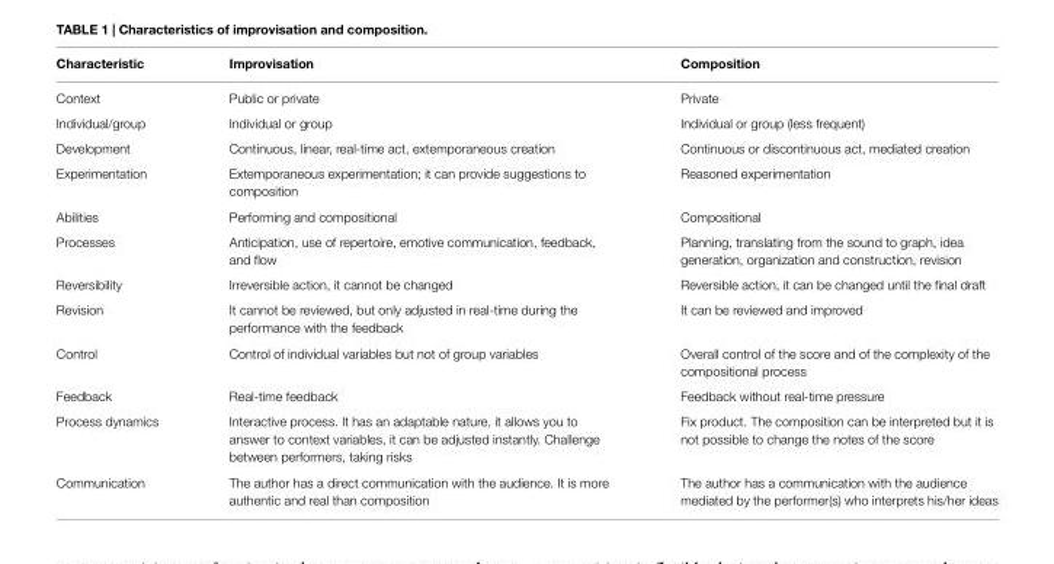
<table><thead><tr><td>Characteristic</td><td>Improvisation</td><td>Composition</td></tr></thead><tbody><tr><td>Context</td><td>Public or private</td><td>Private</td></tr><tr><td>Individual/group</td><td>Individual or group</td><td>Individual or group (less frequent)</td></tr><tr><td>Development</td><td>Continuous, linear, real-time act, extemporaneous creation</td><td>Continuous or discontinuous act, mediated creation</td></tr><tr><td>Experimentation</td><td>Extemporaneous experimentation; it can provide suggestions to composition</td><td>Reasoned experimentation</td></tr><tr><td>Abilities</td><td>Performing and compositional</td><td>Compositional</td></tr><tr><td>Processes</td><td>Anticipation, use of repertoire, emotive communication, feedback, and flow</td><td>Planning, translating from the sound to graph, idea generation, organization and construction, revision</td></tr><tr><td>Reversibility</td><td>Irreversible action, it cannot be changed</td><td>Reversible action, it can be changed until the final draft</td></tr><tr><td>Revision</td><td>It cannot be reviewed, but only adjusted in real-time during the performance with the feedback</td><td>It can be reviewed and improved</td></tr><tr><td>Control</td><td>Control of individual variables but not of group variables</td><td>Overall control of the score and of the complexity of the compositional process</td></tr><tr><td>Feedback</td><td>Real-time feedback</td><td>Feedback without real-time pressure</td></tr><tr><td>Process dynamics</td><td>Interactive process. It has an adaptable nature, it allows you to answer to context variables, it can be adjusted instantly. Challenge between performers, taking risks</td><td>Fix product. The composition can be interpreted but it is not possible to change the notes of the score</td></tr><tr><td>Communication</td><td>The author has a direct communication with the audience. It is more authentic and real than composition</td><td>The author has a communication with the audience mediated by the performer(s) who interprets his/her ideas</td></tr></tbody></table>